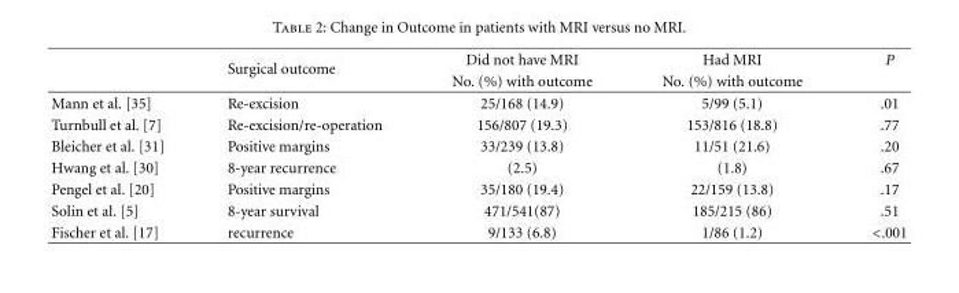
<table><thead><tr><td rowspan="2"></td><td rowspan="2">Surgical outcome</td><td rowspan="2">Did not have MRI No. (%) with outcome</td><td rowspan="2">Had MRI No. (%) with outcome</td><td rowspan="2">P</td></tr><tr></tr></thead><tbody><tr><td>Mann et al. [35]</td><td>Re-excision</td><td>25/168 (14.9)</td><td>5/99 (5.1)</td><td>.01</td></tr><tr><td>Turnbull et al. [7]</td><td>Re-excision/re-operation</td><td>156/807 (19.3)</td><td>153/816 (18.8)</td><td>.77</td></tr><tr><td>Bleicher et al. [31]</td><td>Positive margins</td><td>33/239 (13.8)</td><td>11/51 (21.6)</td><td>.20</td></tr><tr><td>Hwang et al. [30]</td><td>8-year recurrence</td><td>(2.5)</td><td>(1.8)</td><td>.67</td></tr><tr><td>Pengel et al. [20]</td><td>Positive margins</td><td>35/180 (19.4)</td><td>22/159 (13.8)</td><td>.17</td></tr><tr><td>Solin et al. [5]</td><td>8-year survival</td><td>471/541(87)</td><td>185/215 (86)</td><td>.51</td></tr><tr><td>Fischer et al. [17]</td><td>recurrence</td><td>9/133 (6.8)</td><td>1/86 (1.2)</td><td>&lt;.001</td></tr></tbody></table>